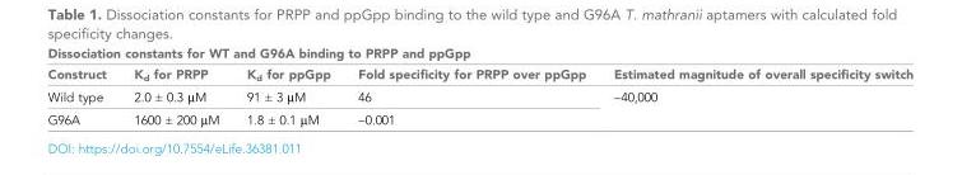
<table><thead><tr><td colspan="5">Dissociation constants for WT and G96A binding to PRPP and ppGpp</td></tr><tr><td>Construct</td><td>K<sub>d</sub> for PRPP</td><td>K<sub>d</sub> for ppGpp</td><td>Fold specificity for PRPP over ppGpp</td><td>Estimated magnitude of overall specificity switch</td></tr></thead><tbody><tr><td>Wild type</td><td>2.0 ± 0.3 μM</td><td>91 ± 3 μM</td><td>46</td><td rowspan="2">~40,000</td></tr><tr><td>G96A</td><td>1600 ± 200 μM</td><td>1.8 ± 0.1 μM</td><td>~0.001</td></tr></tbody></table>